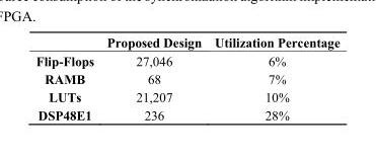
<table><thead><tr><td></td><td>Proposed Design</td><td>Utilization Percentage</td></tr></thead><tbody><tr><td>Flip-Flops</td><td>27,046</td><td>6%</td></tr><tr><td>RAMB</td><td>68</td><td>7%</td></tr><tr><td>LUTs</td><td>21,207</td><td>10%</td></tr><tr><td>DSP48E1</td><td>236</td><td>28%</td></tr></tbody></table>